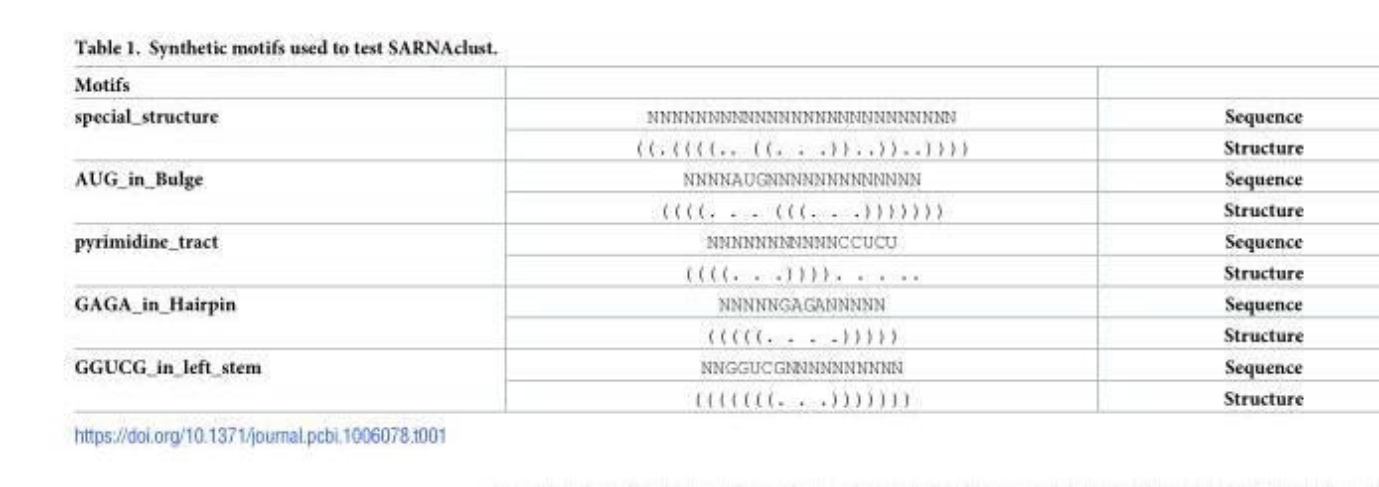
<table><thead><tr><td>Motifs</td><td></td><td></td></tr></thead><tbody><tr><td rowspan="2">special_structure</td><td>NNNNNNNNNNNNNNNNNNNNNNNNNN</td><td>Sequence</td></tr><tr><td>((.((((.. ((. . .))..))..))))</td><td>Structure</td></tr><tr><td rowspan="2">AUG_in_Bulge</td><td>NNNNAUGNNNNNNNNNNNNN</td><td>Sequence</td></tr><tr><td>((((. . . (((. . .)))))))</td><td>Structure</td></tr><tr><td rowspan="2">pyrimidine_tract</td><td>NNNNNNNNNNNCCUCU</td><td>Sequence</td></tr><tr><td>((((. . .)))). . . ..</td><td>Structure</td></tr><tr><td rowspan="2">GAGA_in_Hairpin</td><td>NNNNNGAGANNNNN</td><td>Sequence</td></tr><tr><td>(((((. . . .)))))</td><td>Structure</td></tr><tr><td rowspan="2">GGUCG_in_left_stem</td><td>NNGGUCGNNNNNNNNNN</td><td>Sequence</td></tr><tr><td>(((((((. . .)))))))</td><td>Structure</td></tr></tbody></table>